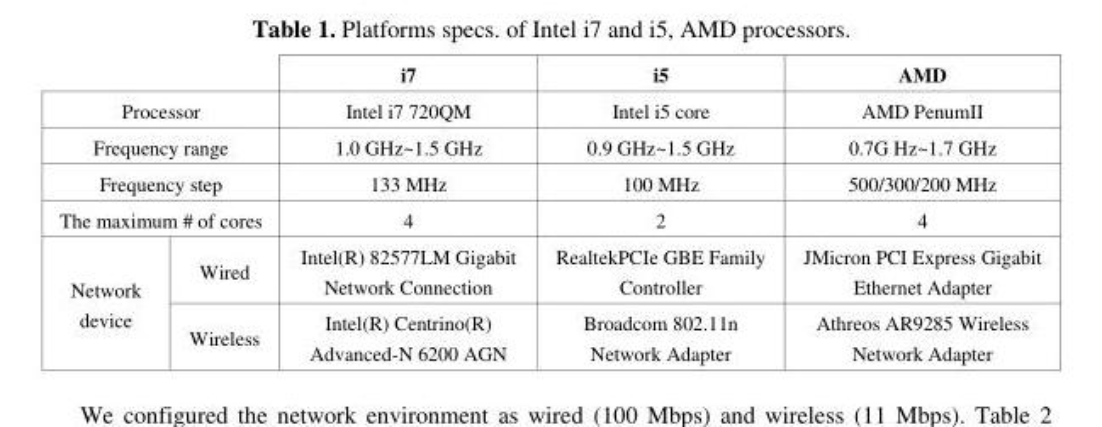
<table><thead><tr><td></td><td></td><td>i7</td><td>i5</td><td>AMD</td></tr></thead><tbody><tr><td colspan="2">Processor</td><td>Intel i7 720QM</td><td>Intel i5 core</td><td>AMD PenumII</td></tr><tr><td colspan="2">Frequency range</td><td>1.0 GHz~1.5 GHz</td><td>0.9 GHz~1.5 GHz</td><td>0.7G Hz~1.7 GHz</td></tr><tr><td colspan="2">Frequency step</td><td>133 MHz</td><td>100 MHz</td><td>500/300/200 MHz</td></tr><tr><td colspan="2">The maximum # of cores</td><td>4</td><td>2</td><td>4</td></tr><tr><td rowspan="2">Network device</td><td>Wired</td><td>Intel(R) 82577LM Gigabit Network Connection</td><td>RealtekPCIe GBE Family Controller</td><td>JMicron PCI Express Gigabit Ethernet Adapter</td></tr><tr><td>Wireless</td><td>Intel(R) Centrino(R) Advanced-N 6200 AGN</td><td>Broadcom 802.11n Network Adapter</td><td>Athreos AR9285 Wireless Network Adapter</td></tr></tbody></table>